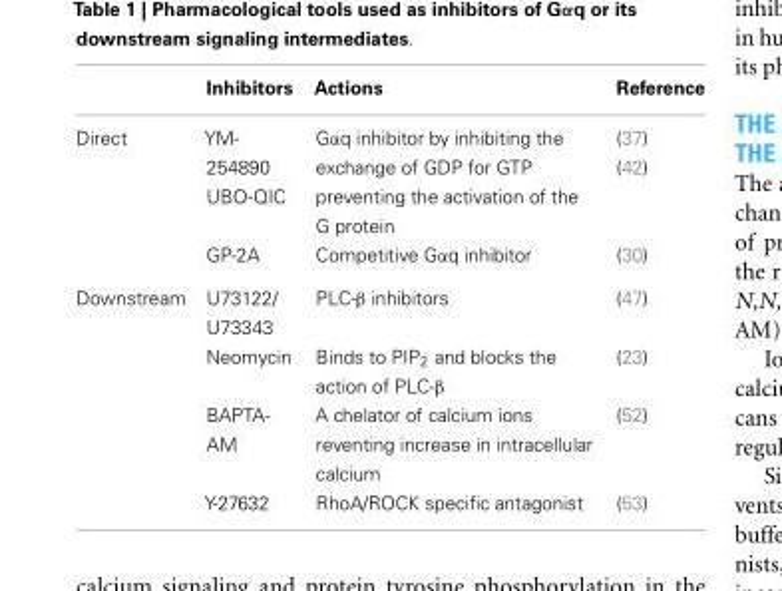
<table><thead><tr><td></td><td>Inhibitors</td><td>Actions</td><td>Reference</td></tr></thead><tbody><tr><td rowspan="2">Direct</td><td>YM- 254890 UBO-QIC</td><td>Gαq inhibitor by inhibiting the exchange of GDP for GTP preventing the activation of the G protein</td><td>(37) (42)</td></tr><tr><td>GP-2A</td><td>Competitive Gαq inhibitor</td><td>(30)</td></tr><tr><td rowspan="4">Downstream</td><td>U73122/ U73343</td><td>PLC-β inhibitors</td><td>(47)</td></tr><tr><td>Neomycin</td><td>Binds to PIP<sub>2</sub> and blocks the action of PLC-β</td><td>(23)</td></tr><tr><td>BAPTA- AM</td><td>A chelator of calcium ions reventing increase in intracellular calcium</td><td>(52)</td></tr><tr><td>Y-27632</td><td>RhoA/ROCK specific antagonist</td><td>(53)</td></tr></tbody></table>